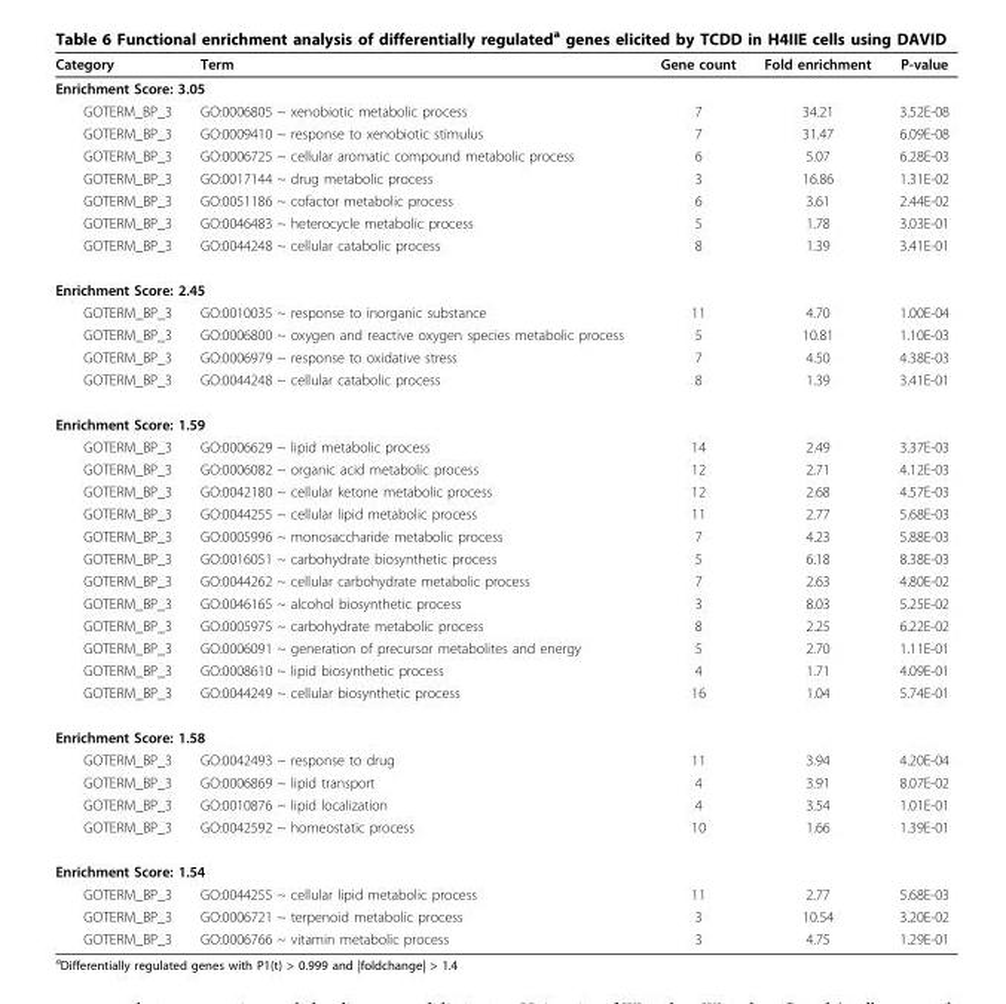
<table><thead><tr><td>Category</td><td>Term</td><td>Gene count</td><td>Fold enrichment</td><td>P-value</td></tr></thead><tbody><tr><td colspan="5">Enrichment Score: 3.05</td></tr><tr><td>GOTERM_BP_3</td><td>GO:0006805 ~ xenobiotic metabolic process</td><td>7</td><td>34.21</td><td>3.52E-08</td></tr><tr><td>GOTERM_BP_3</td><td>GO:0009410 ~ response to xenobiotic stimulus</td><td>7</td><td>31.47</td><td>6.09E-08</td></tr><tr><td>GOTERM_BP_3</td><td>GO:0006725 ~ cellular aromatic compound metabolic process</td><td>6</td><td>5.07</td><td>6.28E-03</td></tr><tr><td>GOTERM_BP_3</td><td>GO:0017144 ~ drug metabolic process</td><td>3</td><td>16.86</td><td>1.31E-02</td></tr><tr><td>GOTERM_BP_3</td><td>GO:0051186 ~ cofactor metabolic process</td><td>6</td><td>3.61</td><td>2.44E-02</td></tr><tr><td>GOTERM_BP_3</td><td>GO:0046483 ~ heterocycle metabolic process</td><td>5</td><td>1.78</td><td>3.03E-01</td></tr><tr><td>GOTERM_BP_3</td><td>GO:0044248 ~ cellular catabolic process</td><td>8</td><td>1.39</td><td>3.41E-01</td></tr><tr><td colspan="5">Enrichment Score: 2.45</td></tr><tr><td>GOTERM_BP_3</td><td>GO:0010035 ~ response to inorganic substance</td><td>11</td><td>4.70</td><td>1.00E-04</td></tr><tr><td>GOTERM_BP_3</td><td>GO:0006800 ~ oxygen and reactive oxygen species metabolic process</td><td>5</td><td>10.81</td><td>1.10E-03</td></tr><tr><td>GOTERM_BP_3</td><td>GO:0006979 ~ response to oxidative stress</td><td>7</td><td>4.50</td><td>4.38E-03</td></tr><tr><td>GOTERM_BP_3</td><td>GO:0044248 ~ cellular catabolic process</td><td>8</td><td>1.39</td><td>3.41E-01</td></tr><tr><td colspan="5">Enrichment Score: 1.59</td></tr><tr><td>GOTERM_BP_3</td><td>GO:0006629 ~ lipid metabolic process</td><td>14</td><td>2.49</td><td>3.37E-03</td></tr><tr><td>GOTERM_BP_3</td><td>GO:0006082 ~ organic acid metabolic process</td><td>12</td><td>2.71</td><td>4.12E-03</td></tr><tr><td>GOTERM_BP_3</td><td>GO:0042180 ~ cellular ketone metabolic process</td><td>12</td><td>2.68</td><td>4.57E-03</td></tr><tr><td>GOTERM_BP_3</td><td>GO:0044255 ~ cellular lipid metabolic process</td><td>11</td><td>2.77</td><td>5.68E-03</td></tr><tr><td>GOTERM_BP_3</td><td>GO:0005996 ~ monosaccharide metabolic process</td><td>7</td><td>4.23</td><td>5.88E-03</td></tr><tr><td>GOTERM_BP_3</td><td>GO:0016051 ~ carbohydrate biosynthetic process</td><td>5</td><td>6.18</td><td>8.38E-03</td></tr><tr><td>GOTERM_BP_3</td><td>GO:0044262 ~ cellular carbohydrate metabolic process</td><td>7</td><td>2.63</td><td>4.80E-02</td></tr><tr><td>GOTERM_BP_3</td><td>GO:0046165 ~ alcohol biosynthetic process</td><td>3</td><td>8.03</td><td>5.25E-02</td></tr><tr><td>GOTERM_BP_3</td><td>GO:0005975 ~ carbohydrate metabolic process</td><td>8</td><td>2.25</td><td>6.22E-02</td></tr><tr><td>GOTERM_BP_3</td><td>GO:0006091 ~ generation of precursor metabolites and energy</td><td>5</td><td>2.70</td><td>1.11E-01</td></tr><tr><td>GOTERM_BP_3</td><td>GO:0008610 ~ lipid biosynthetic process</td><td>4</td><td>1.71</td><td>4.09E-01</td></tr><tr><td>GOTERM_BP_3</td><td>GO:0044249 ~ cellular biosynthetic process</td><td>16</td><td>1.04</td><td>5.74E-01</td></tr><tr><td colspan="5">Enrichment Score: 1.58</td></tr><tr><td>GOTERM_BP_3</td><td>GO:0042493 ~ response to drug</td><td>11</td><td>3.94</td><td>4.20E-04</td></tr><tr><td>GOTERM_BP_3</td><td>GO:0006869 ~ lipid transport</td><td>4</td><td>3.91</td><td>8.07E-02</td></tr><tr><td>GOTERM_BP_3</td><td>GO:0010876 ~ lipid localization</td><td>4</td><td>3.54</td><td>1.01E-01</td></tr><tr><td>GOTERM_BP_3</td><td>GO:0042592 ~ homeostatic process</td><td>10</td><td>1.66</td><td>1.39E-01</td></tr><tr><td colspan="5">Enrichment Score: 1.54</td></tr><tr><td>GOTERM_BP_3</td><td>GO:0044255 ~ cellular lipid metabolic process</td><td>11</td><td>2.77</td><td>5.68E-03</td></tr><tr><td>GOTERM_BP_3</td><td>GO:0006721 ~ terpenoid metabolic process</td><td>3</td><td>10.54</td><td>3.20E-02</td></tr><tr><td>GOTERM_BP_3</td><td>GO:0006766 ~ vitamin metabolic process</td><td>3</td><td>4.75</td><td>1.29E-01</td></tr></tbody></table>